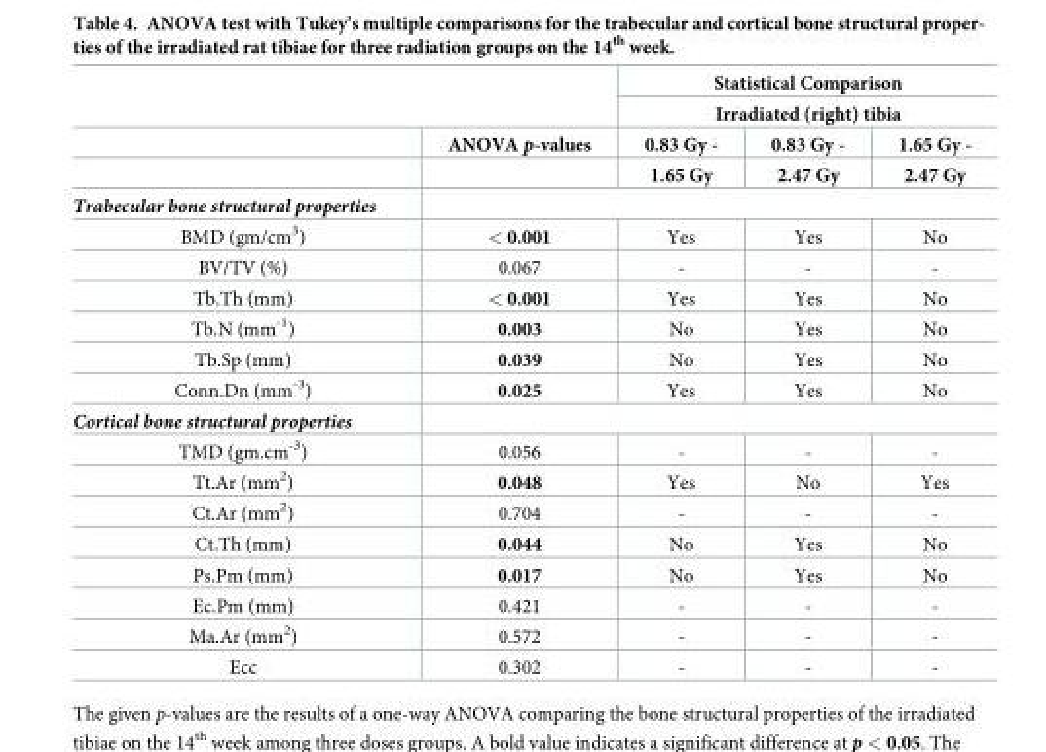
<table><thead><tr><td rowspan="4"></td><td rowspan="4">ANOVA p-values</td><td rowspan="2" colspan="3">Statistical Comparison Irradiated (right) tibia</td></tr><tr></tr><tr><td rowspan="2">0.83 Gy - 1.65 Gy</td><td rowspan="2">0.83 Gy - 2.47 Gy</td><td rowspan="2">1.65 Gy - 2.47 Gy</td></tr><tr></tr></thead><tbody><tr><td colspan="5">Trabecular bone structural properties</td></tr><tr><td>BMD (gm/cm<sup>3</sup>)</td><td>&lt; 0.001</td><td>Yes</td><td>Yes</td><td>No</td></tr><tr><td>BV/TV (%)</td><td>0.067</td><td>-</td><td>-</td><td>-</td></tr><tr><td>Tb.Th (mm)</td><td>&lt; 0.001</td><td>Yes</td><td>Yes</td><td>No</td></tr><tr><td>Tb.N (mm<sup>-1</sup>)</td><td>0.003</td><td>No</td><td>Yes</td><td>No</td></tr><tr><td>Tb.Sp (mm)</td><td>0.039</td><td>No</td><td>Yes</td><td>No</td></tr><tr><td>Conn.Dn (mm<sup>-3</sup>)</td><td>0.025</td><td>Yes</td><td>Yes</td><td>No</td></tr><tr><td colspan="5">Cortical bone structural properties</td></tr><tr><td>TMD (gm.cm<sup>-3</sup>)</td><td>0.056</td><td>-</td><td>-</td><td>-</td></tr><tr><td>Tt.Ar (mm<sup>2</sup>)</td><td>0.048</td><td>Yes</td><td>No</td><td>Yes</td></tr><tr><td>Ct.Ar (mm<sup>2</sup>)</td><td>0.704</td><td>-</td><td>-</td><td>-</td></tr><tr><td>Ct.Th (mm)</td><td>0.044</td><td>No</td><td>Yes</td><td>No</td></tr><tr><td>Ps.Pm (mm)</td><td>0.017</td><td>No</td><td>Yes</td><td>No</td></tr><tr><td>Ec.Pm (mm)</td><td>0.421</td><td>-</td><td>-</td><td>-</td></tr><tr><td>Ma.Ar (mm<sup>2</sup>)</td><td>0.572</td><td>-</td><td>-</td><td>-</td></tr><tr><td>Ecc</td><td>0.302</td><td>-</td><td>-</td><td>-</td></tr></tbody></table>